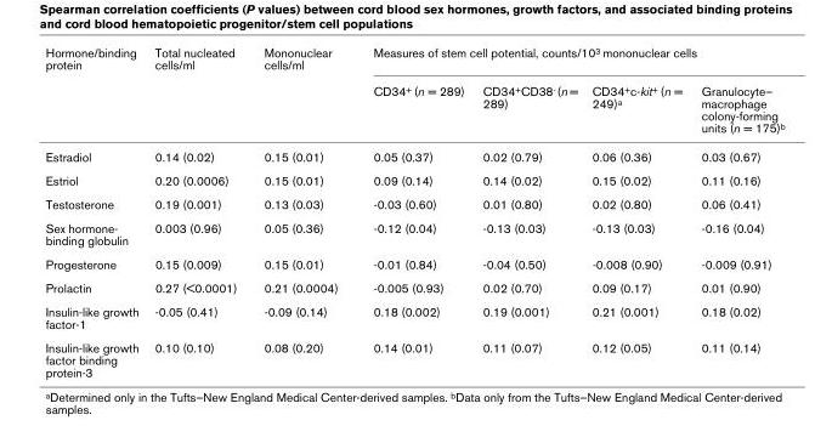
<table><thead><tr><td rowspan="2">Hormone/binding protein</td><td rowspan="2">Total nucleated cells/ml</td><td rowspan="2">Mononuclear cells/ml</td><td colspan="4">Measures of stem cell potential, counts/10<sup>3</sup> mononuclear cells</td></tr><tr><td>CD34<sup>+</sup> (n = 289)</td><td>CD34<sup>+</sup>CD38<sup>-</sup> (n = 289)</td><td>CD34<sup>+</sup>c-kit<sup>+</sup> (n = 249)<sup>a</sup></td><td>Granulocyte– macrophage colony-forming units (n = 175)<sup>b</sup></td></tr></thead><tbody><tr><td>Estradiol</td><td>0.14 (0.02)</td><td>0.15 (0.01)</td><td>0.05 (0.37)</td><td>0.02 (0.79)</td><td>0.06 (0.36)</td><td>0.03 (0.67)</td></tr><tr><td>Estriol</td><td>0.20 (0.0006)</td><td>0.15 (0.01)</td><td>0.09 (0.14)</td><td>0.14 (0.02)</td><td>0.15 (0.02)</td><td>0.11 (0.16)</td></tr><tr><td>Testosterone</td><td>0.19 (0.001)</td><td>0.13 (0.03)</td><td>-0.03 (0.60)</td><td>0.01 (0.80)</td><td>0.02 (0.80)</td><td>0.06 (0.41)</td></tr><tr><td>Sex hormone- binding globulin</td><td>0.003 (0.96)</td><td>0.05 (0.36)</td><td>-0.12 (0.04)</td><td>-0.13 (0.03)</td><td>-0.13 (0.03)</td><td>-0.16 (0.04)</td></tr><tr><td>Progesterone</td><td>0.15 (0.009)</td><td>0.15 (0.01)</td><td>-0.01 (0.84)</td><td>-0.04 (0.50)</td><td>-0.008 (0.90)</td><td>-0.009 (0.91)</td></tr><tr><td>Prolactin</td><td>0.27 (&lt;0.0001)</td><td>0.21 (0.0004)</td><td>-0.005 (0.93)</td><td>0.02 (0.70)</td><td>0.09 (0.17)</td><td>0.01 (0.90)</td></tr><tr><td>Insulin-like growth factor-1</td><td>-0.05 (0.41)</td><td>-0.09 (0.14)</td><td>0.18 (0.002)</td><td>0.19 (0.001)</td><td>0.21 (0.001)</td><td>0.18 (0.02)</td></tr><tr><td>Insulin-like growth factor binding protein-3</td><td>0.10 (0.10)</td><td>0.08 (0.20)</td><td>0.14 (0.01)</td><td>0.11 (0.07)</td><td>0.12 (0.05)</td><td>0.11 (0.14)</td></tr></tbody></table>